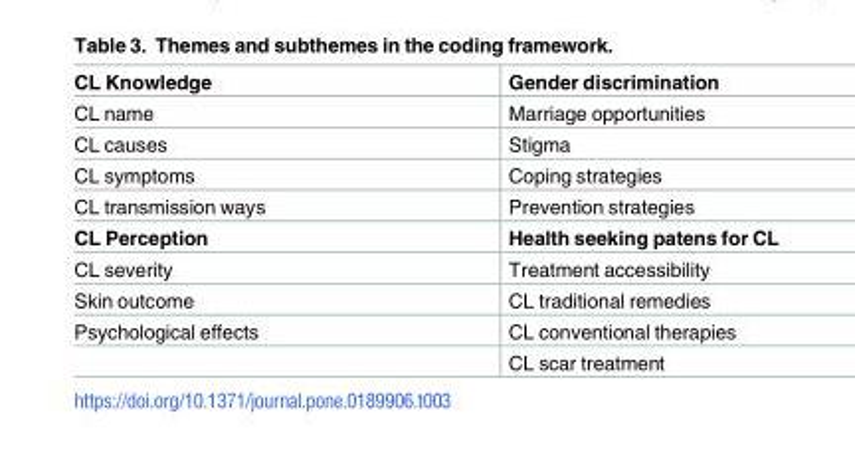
<table><tbody><tr><td>CL Knowledge</td><td>Gender discrimination</td></tr><tr><td>CL name</td><td>Marriage opportunities</td></tr><tr><td>CL causes</td><td>Stigma</td></tr><tr><td>CL symptoms</td><td>Coping strategies</td></tr><tr><td>CL transmission ways</td><td>Prevention strategies</td></tr><tr><td>CL Perception</td><td>Health seeking patens for CL</td></tr><tr><td>CL severity</td><td>Treatment accessibility</td></tr><tr><td>Skin outcome</td><td>CL traditional remedies</td></tr><tr><td rowspan="2">Psychological effects</td><td>CL conventional therapies</td></tr><tr><td>CL scar treatment</td></tr></tbody></table>